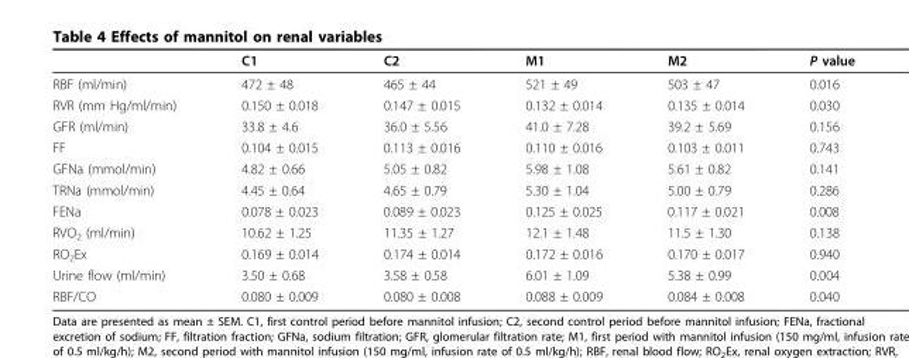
<table><thead><tr><td></td><td>C1</td><td>C2</td><td>M1</td><td>M2</td><td>P value</td></tr></thead><tbody><tr><td>RBF (ml/min)</td><td>472 ± 48</td><td>465 ± 44</td><td>521 ± 49</td><td>503 ± 47</td><td>0.016</td></tr><tr><td>RVR (mm Hg/ml/min)</td><td>0.150 ± 0.018</td><td>0.147 ± 0.015</td><td>0.132 ± 0.014</td><td>0.135 ± 0.014</td><td>0.030</td></tr><tr><td>GFR (ml/min)</td><td>33.8 ± 4.6</td><td>36.0 ± 5.56</td><td>41.0 ± 7.28</td><td>39.2 ± 5.69</td><td>0.156</td></tr><tr><td>FF</td><td>0.104 ± 0.015</td><td>0.113 ± 0.016</td><td>0.110 ± 0.016</td><td>0.103 ± 0.011</td><td>0.743</td></tr><tr><td>GFNa (mmol/min)</td><td>4.82 ± 0.66</td><td>5.05 ± 0.82</td><td>5.98 ± 1.08</td><td>5.61 ± 0.82</td><td>0.141</td></tr><tr><td>TRNa (mmol/min)</td><td>4.45 ± 0.64</td><td>4.65 ± 0.79</td><td>5.30 ± 1.04</td><td>5.00 ± 0.79</td><td>0.286</td></tr><tr><td>FENa</td><td>0.078 ± 0.023</td><td>0.089 ± 0.023</td><td>0.125 ± 0.025</td><td>0.117 ± 0.021</td><td>0.008</td></tr><tr><td>RVO<sub>2</sub> (ml/min)</td><td>10.62 ± 1.25</td><td>11.35 ± 1.27</td><td>12.1 ± 1.48</td><td>11.5 ± 1.30</td><td>0.138</td></tr><tr><td>RO<sub>2</sub>Ex</td><td>0.169 ± 0.014</td><td>0.174 ± 0.014</td><td>0.172 ± 0.016</td><td>0.170 ± 0.017</td><td>0.940</td></tr><tr><td>Urine flow (ml/min)</td><td>3.50 ± 0.68</td><td>3.58 ± 0.58</td><td>6.01 ± 1.09</td><td>5.38 ± 0.99</td><td>0.004</td></tr><tr><td>RBF/CO</td><td>0.080 ± 0.009</td><td>0.080 ± 0.008</td><td>0.088 ± 0.009</td><td>0.084 ± 0.008</td><td>0.040</td></tr></tbody></table>